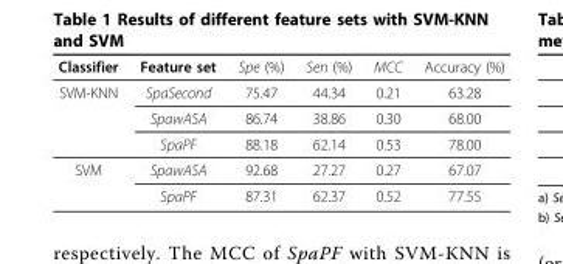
<table><thead><tr><td>Classifier</td><td>Feature set</td><td>Spe (%)</td><td>Sen (%)</td><td>MCC</td><td>Accuracy (%)</td></tr></thead><tbody><tr><td rowspan="3">SVM-KNN</td><td>SpaSecond</td><td>75.47</td><td>44.34</td><td>0.21</td><td>63.28</td></tr><tr><td>SpawASA</td><td>86.74</td><td>38.86</td><td>0.30</td><td>68.00</td></tr><tr><td>SpaPF</td><td>88.18</td><td>62.14</td><td>0.53</td><td>78.00</td></tr><tr><td rowspan="2">SVM</td><td>SpawASA</td><td>92.68</td><td>27.27</td><td>0.27</td><td>67.07</td></tr><tr><td>SpaPF</td><td>87.31</td><td>62.37</td><td>0.52</td><td>77.55</td></tr></tbody></table>